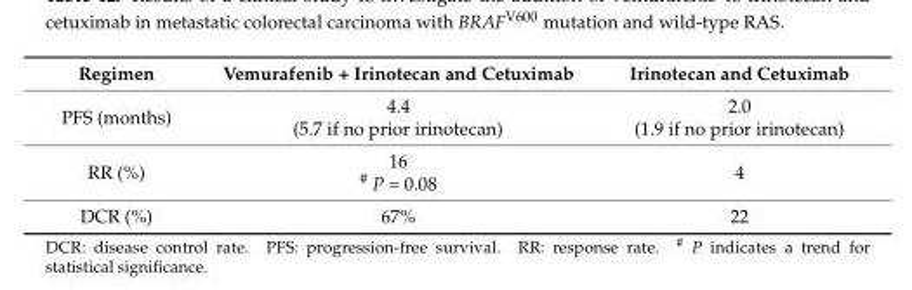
<table><thead><tr><td>Regimen</td><td>Vemurafenib + Irinotecan and Cetuximab</td><td>Irinotecan and Cetuximab</td></tr></thead><tbody><tr><td>PFS (months)</td><td>4.4 (5.7 if no prior irinotecan)</td><td>2.0 (1.9 if no prior irinotecan)</td></tr><tr><td>RR (%)</td><td>16 <sup>#</sup> P = 0.08</td><td>4</td></tr><tr><td>DCR (%)</td><td>67%</td><td>22</td></tr></tbody></table>